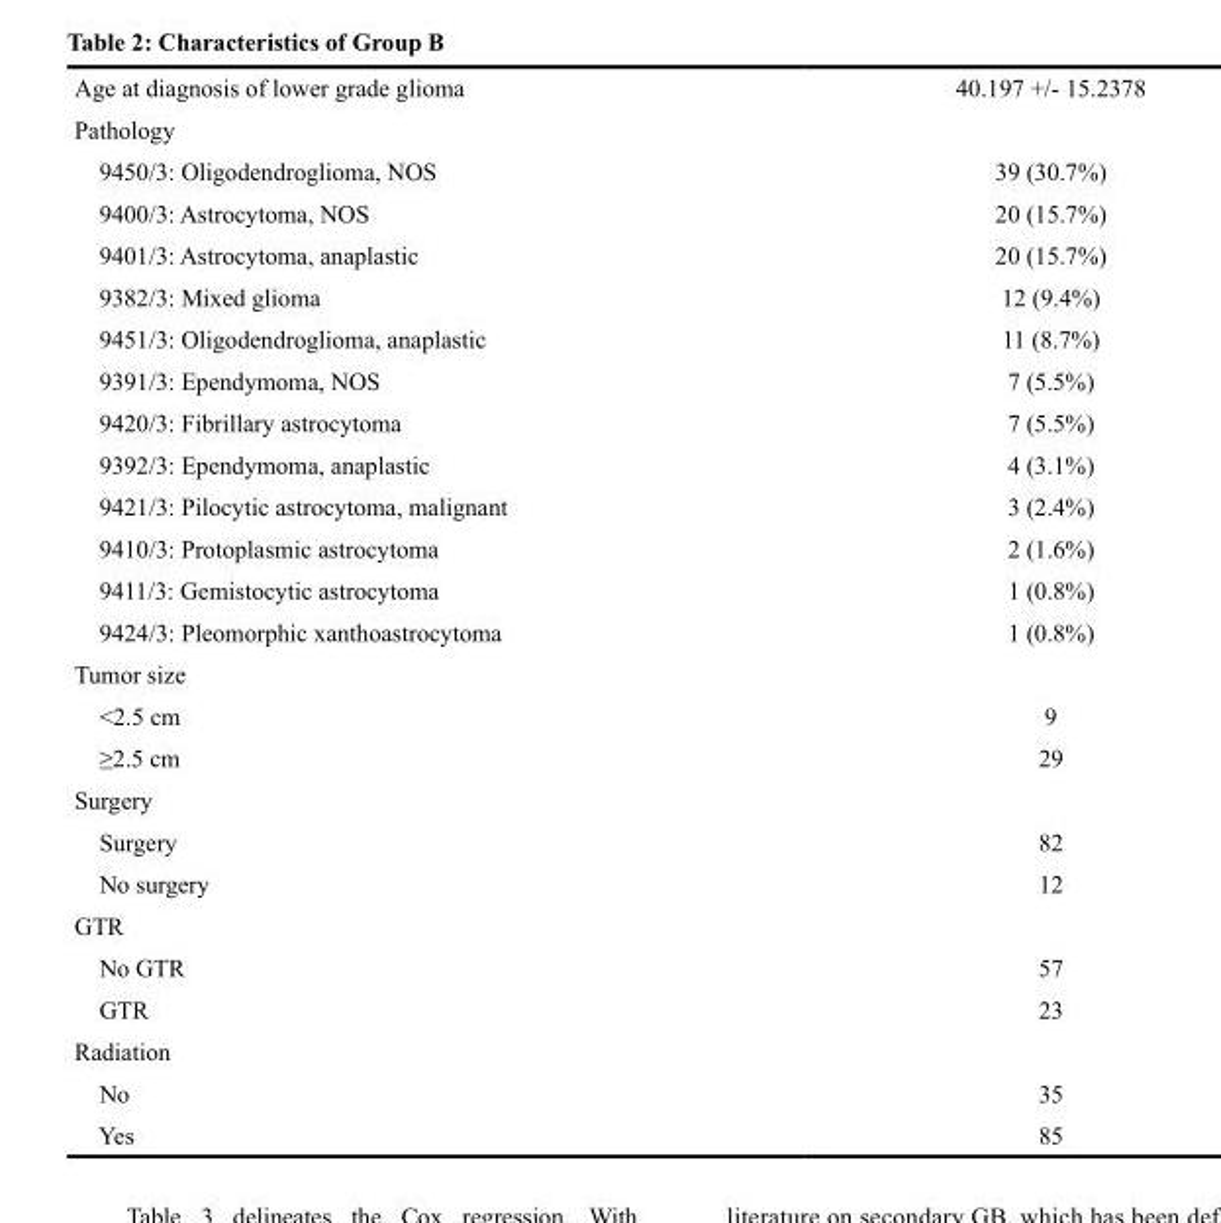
<table><tbody><tr><td>Age at diagnosis of lower grade glioma</td><td>40.197 +/- 15.2378</td></tr><tr><td colspan="2">Pathology</td></tr><tr><td>9450/3: Oligodendroglioma, NOS</td><td>39 (30.7%)</td></tr><tr><td>9400/3: Astrocytoma, NOS</td><td>20 (15.7%)</td></tr><tr><td>9401/3: Astrocytoma, anaplastic</td><td>20 (15.7%)</td></tr><tr><td>9382/3: Mixed glioma</td><td>12 (9.4%)</td></tr><tr><td>9451/3: Oligodendroglioma, anaplastic</td><td>11 (8.7%)</td></tr><tr><td>9391/3: Ependymoma, NOS</td><td>7 (5.5%)</td></tr><tr><td>9420/3: Fibrillary astrocytoma</td><td>7 (5.5%)</td></tr><tr><td>9392/3: Ependymoma, anaplastic</td><td>4 (3.1%)</td></tr><tr><td>9421/3: Pilocytic astrocytoma, malignant</td><td>3 (2.4%)</td></tr><tr><td>9410/3: Protoplasmic astrocytoma</td><td>2 (1.6%)</td></tr><tr><td>9411/3: Gemistocytic astrocytoma</td><td>1 (0.8%)</td></tr><tr><td>9424/3: Pleomorphic xanthoastrocytoma</td><td>1 (0.8%)</td></tr><tr><td colspan="2">Tumor size</td></tr><tr><td>&lt;2.5 cm</td><td>9</td></tr><tr><td>≥2.5 cm</td><td>29</td></tr><tr><td colspan="2">Surgery</td></tr><tr><td>Surgery</td><td>82</td></tr><tr><td>No surgery</td><td>12</td></tr><tr><td colspan="2">GTR</td></tr><tr><td>No GTR</td><td>57</td></tr><tr><td>GTR</td><td>23</td></tr><tr><td colspan="2">Radiation</td></tr><tr><td>No</td><td>35</td></tr><tr><td>Yes</td><td>85</td></tr></tbody></table>